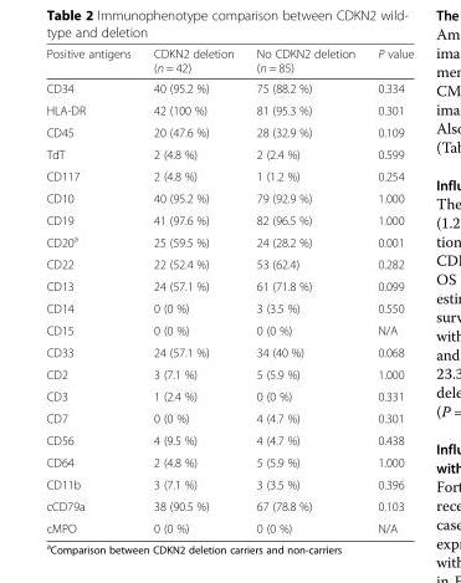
<table><thead><tr><td>Positive antigens</td><td>CDKN2 deletion (n = 42)</td><td>No CDKN2 deletion (n = 85)</td><td>P value</td></tr></thead><tbody><tr><td>CD34</td><td>40 (95.2 %)</td><td>75 (88.2 %)</td><td>0.334</td></tr><tr><td>HLA-DR</td><td>42 (100 %)</td><td>81 (95.3 %)</td><td>0.301</td></tr><tr><td>CD45</td><td>20 (47.6 %)</td><td>28 (32.9 %)</td><td>0.109</td></tr><tr><td>TdT</td><td>2 (4.8 %)</td><td>2 (2.4 %)</td><td>0.599</td></tr><tr><td>CD117</td><td>2 (4.8 %)</td><td>1 (1.2 %)</td><td>0.254</td></tr><tr><td>CD10</td><td>40 (95.2 %)</td><td>79 (92.9 %)</td><td>1.000</td></tr><tr><td>CD19</td><td>41 (97.6 %)</td><td>82 (96.5 %)</td><td>1.000</td></tr><tr><td>CD20<sup>a</sup></td><td>25 (59.5 %)</td><td>24 (28.2 %)</td><td>0.001</td></tr><tr><td>CD22</td><td>22 (52.4 %)</td><td>53 (62.4)</td><td>0.282</td></tr><tr><td>CD13</td><td>24 (57.1 %)</td><td>61 (71.8 %)</td><td>0.099</td></tr><tr><td>CD14</td><td>0 (0 %)</td><td>3 (3.5 %)</td><td>0.550</td></tr><tr><td>CD15</td><td>0 (0 %)</td><td>0 (0 %)</td><td>N/A</td></tr><tr><td>CD33</td><td>24 (57.1 %)</td><td>34 (40 %)</td><td>0.068</td></tr><tr><td>CD2</td><td>3 (7.1 %)</td><td>5 (5.9 %)</td><td>1.000</td></tr><tr><td>CD3</td><td>1 (2.4 %)</td><td>0 (0 %)</td><td>0.331</td></tr><tr><td>CD7</td><td>0 (0 %)</td><td>4 (4.7 %)</td><td>0.301</td></tr><tr><td>CD56</td><td>4 (9.5 %)</td><td>4 (4.7 %)</td><td>0.438</td></tr><tr><td>CD64</td><td>2 (4.8 %)</td><td>5 (5.9 %)</td><td>1.000</td></tr><tr><td>CD11b</td><td>3 (7.1 %)</td><td>3 (3.5 %)</td><td>0.396</td></tr><tr><td>cCD79a</td><td>38 (90.5 %)</td><td>67 (78.8 %)</td><td>0.103</td></tr><tr><td>cMPO</td><td>0 (0 %)</td><td>0 (0 %)</td><td>N/A</td></tr></tbody></table>